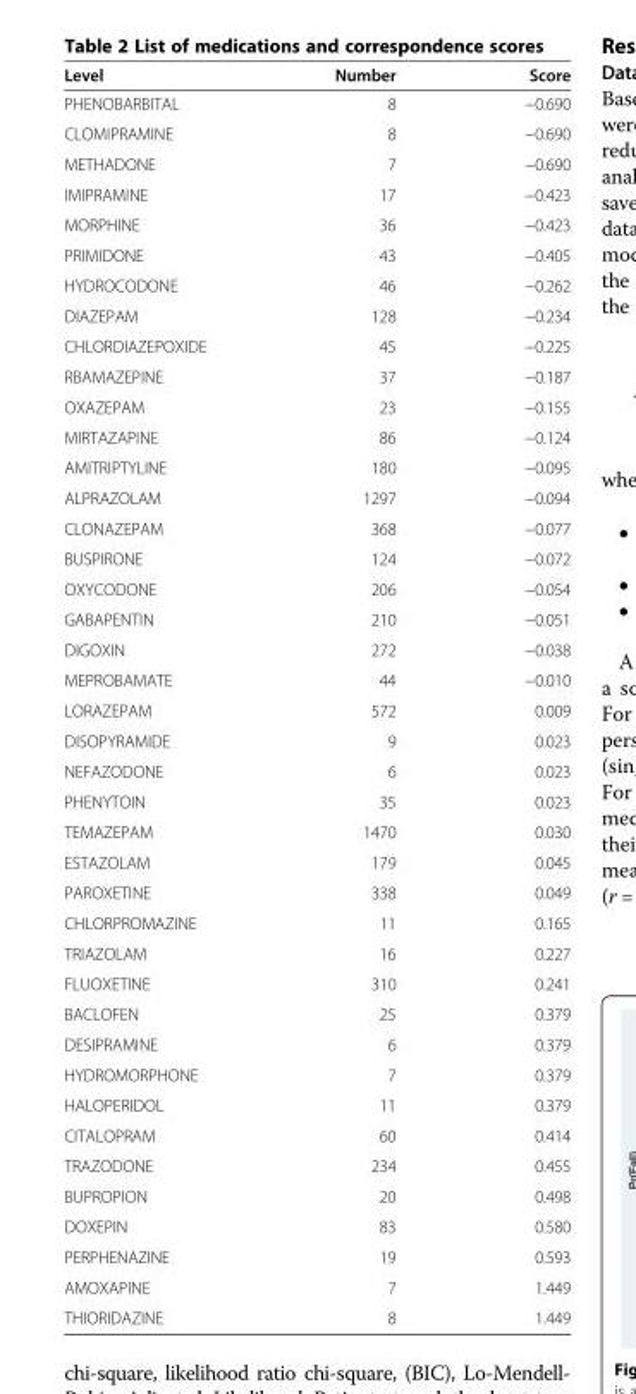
<table><thead><tr><td>Level</td><td>Number</td><td>Score</td></tr></thead><tbody><tr><td>PHENOBARBITAL</td><td>8</td><td>−0.690</td></tr><tr><td>CLOMIPRAMINE</td><td>8</td><td>−0.690</td></tr><tr><td>METHADONE</td><td>7</td><td>−0.690</td></tr><tr><td>IMIPRAMINE</td><td>17</td><td>−0.423</td></tr><tr><td>MORPHINE</td><td>36</td><td>−0.423</td></tr><tr><td>PRIMIDONE</td><td>43</td><td>−0.405</td></tr><tr><td>HYDROCODONE</td><td>46</td><td>−0.262</td></tr><tr><td>DIAZEPAM</td><td>128</td><td>−0.234</td></tr><tr><td>CHLORDIAZEPOXIDE</td><td>45</td><td>−0.225</td></tr><tr><td>RBAMAZEPINE</td><td>37</td><td>−0.187</td></tr><tr><td>OXAZEPAM</td><td>23</td><td>−0.155</td></tr><tr><td>MIRTAZAPINE</td><td>86</td><td>−0.124</td></tr><tr><td>AMITRIPTYLINE</td><td>180</td><td>−0.095</td></tr><tr><td>ALPRAZOLAM</td><td>1297</td><td>−0.094</td></tr><tr><td>CLONAZEPAM</td><td>368</td><td>−0.077</td></tr><tr><td>BUSPIRONE</td><td>124</td><td>−0.072</td></tr><tr><td>OXYCODONE</td><td>206</td><td>−0.054</td></tr><tr><td>GABAPENTIN</td><td>210</td><td>−0.051</td></tr><tr><td>DIGOXIN</td><td>272</td><td>−0.038</td></tr><tr><td>MEPROBAMATE</td><td>44</td><td>−0.010</td></tr><tr><td>LORAZEPAM</td><td>572</td><td>0.009</td></tr><tr><td>DISOPYRAMIDE</td><td>9</td><td>0.023</td></tr><tr><td>NEFAZODONE</td><td>6</td><td>0.023</td></tr><tr><td>PHENYTOIN</td><td>35</td><td>0.023</td></tr><tr><td>TEMAZEPAM</td><td>1470</td><td>0.030</td></tr><tr><td>ESTAZOLAM</td><td>179</td><td>0.045</td></tr><tr><td>PAROXETINE</td><td>338</td><td>0.049</td></tr><tr><td>CHLORPROMAZINE</td><td>11</td><td>0.165</td></tr><tr><td>TRIAZOLAM</td><td>16</td><td>0.227</td></tr><tr><td>FLUOXETINE</td><td>310</td><td>0.241</td></tr><tr><td>BACLOFEN</td><td>25</td><td>0.379</td></tr><tr><td>DESIPRAMINE</td><td>6</td><td>0.379</td></tr><tr><td>HYDROMORPHONE</td><td>7</td><td>0.379</td></tr><tr><td>HALOPERIDOL</td><td>11</td><td>0.379</td></tr><tr><td>CITALOPRAM</td><td>60</td><td>0.414</td></tr><tr><td>TRAZODONE</td><td>234</td><td>0.455</td></tr><tr><td>BUPROPION</td><td>20</td><td>0.498</td></tr><tr><td>DOXEPIN</td><td>83</td><td>0.580</td></tr><tr><td>PERPHENAZINE</td><td>19</td><td>0.593</td></tr><tr><td>AMOXAPINE</td><td>7</td><td>1.449</td></tr><tr><td>THIORIDAZINE</td><td>8</td><td>1.449</td></tr></tbody></table>